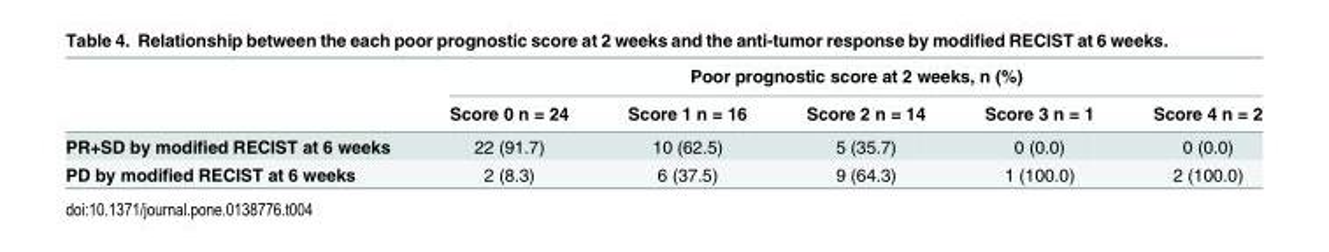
<table><thead><tr><td rowspan="2"></td><td colspan="5">Poor prognostic score at 2 weeks, n (%)</td></tr><tr><td>Score 0 n = 24</td><td>Score 1 n = 16</td><td>Score 2 n = 14</td><td>Score 3 n = 1</td><td>Score 4 n = 2</td></tr></thead><tbody><tr><td>PR+SD by modified RECIST at 6 weeks</td><td>22 (91.7)</td><td>10 (62.5)</td><td>5 (35.7)</td><td>0 (0.0)</td><td>0 (0.0)</td></tr><tr><td>PD by modified RECIST at 6 weeks</td><td>2 (8.3)</td><td>6 (37.5)</td><td>9 (64.3)</td><td>1 (100.0)</td><td>2 (100.0)</td></tr></tbody></table>